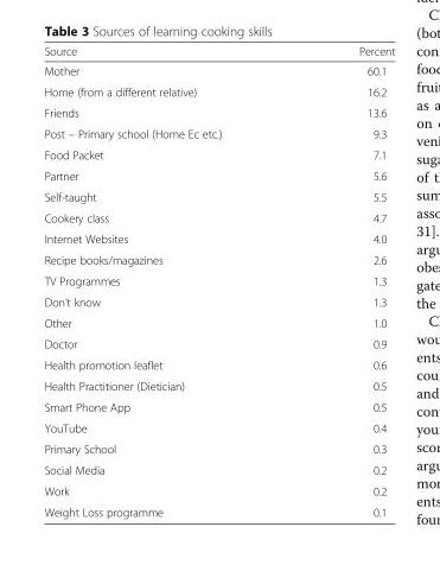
<table><thead><tr><td>Source</td><td>Percent</td></tr></thead><tbody><tr><td>Mother</td><td>60.1</td></tr><tr><td>Home (from a different relative)</td><td>16.2</td></tr><tr><td>Friends</td><td>13.6</td></tr><tr><td>Post – Primary school (Home Ec etc.)</td><td>9.3</td></tr><tr><td>Food Packet</td><td>7.1</td></tr><tr><td>Partner</td><td>5.6</td></tr><tr><td>Self-taught</td><td>5.5</td></tr><tr><td>Cookery class</td><td>4.7</td></tr><tr><td>Internet Websites</td><td>4.0</td></tr><tr><td>Recipe books/magazines</td><td>2.6</td></tr><tr><td>TV Programmes</td><td>1.3</td></tr><tr><td>Don’t know</td><td>1.3</td></tr><tr><td>Other</td><td>1.0</td></tr><tr><td>Doctor</td><td>0.9</td></tr><tr><td>Health promotion leaflet</td><td>0.6</td></tr><tr><td>Health Practitioner (Dietician)</td><td>0.5</td></tr><tr><td>Smart Phone App</td><td>0.5</td></tr><tr><td>YouTube</td><td>0.4</td></tr><tr><td>Primary School</td><td>0.3</td></tr><tr><td>Social Media</td><td>0.2</td></tr><tr><td>Work</td><td>0.2</td></tr><tr><td>Weight Loss programme</td><td>0.1</td></tr></tbody></table>